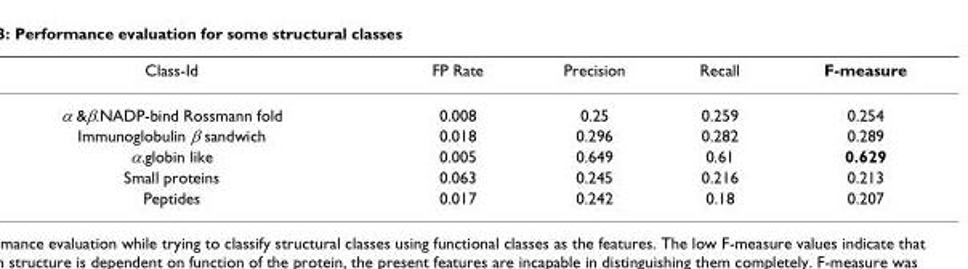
<table><thead><tr><td>Class-Id</td><td>FP Rate</td><td>Precision</td><td>Recall</td><td>F-measure</td></tr></thead><tbody><tr><td>α &amp;β.NADP-bind Rossmann fold</td><td>0.008</td><td>0.25</td><td>0.259</td><td>0.254</td></tr><tr><td>Immunoglobulin β sandwich</td><td>0.018</td><td>0.296</td><td>0.282</td><td>0.289</td></tr><tr><td>α.globin like</td><td>0.005</td><td>0.649</td><td>0.61</td><td>0.629</td></tr><tr><td>Small proteins</td><td>0.063</td><td>0.245</td><td>0.216</td><td>0.213</td></tr><tr><td>Peptides</td><td>0.017</td><td>0.242</td><td>0.18</td><td>0.207</td></tr></tbody></table>